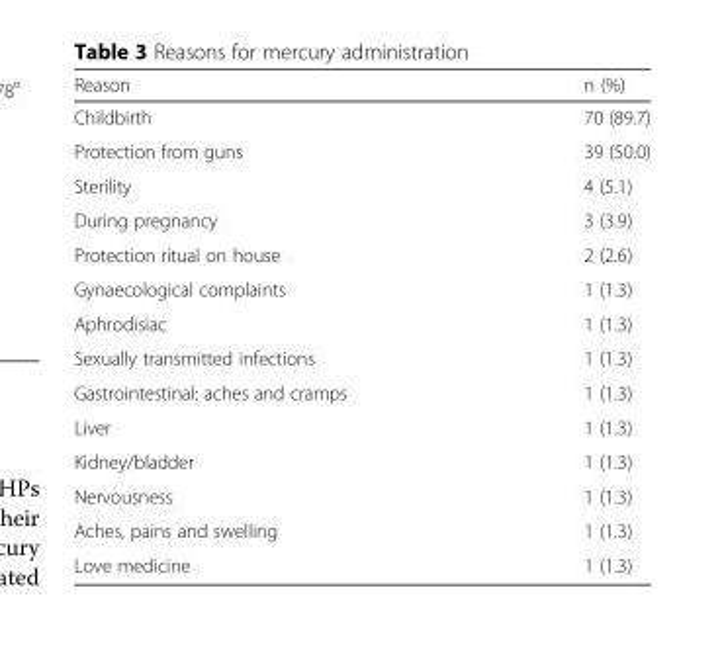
<table><thead><tr><td>Reason</td><td>n (%)</td></tr></thead><tbody><tr><td>Childbirth</td><td>70 (89.7)</td></tr><tr><td>Protection from guns</td><td>39 (50.0)</td></tr><tr><td>Sterility</td><td>4 (5.1)</td></tr><tr><td>During pregnancy</td><td>3 (3.9)</td></tr><tr><td>Protection ritual on house</td><td>2 (2.6)</td></tr><tr><td>Gynaecological complaints</td><td>1 (1.3)</td></tr><tr><td>Aphrodisiac</td><td>1 (1.3)</td></tr><tr><td>Sexually transmitted infections</td><td>1 (1.3)</td></tr><tr><td>Gastrointestinal: aches and cramps</td><td>1 (1.3)</td></tr><tr><td>Liver</td><td>1 (1.3)</td></tr><tr><td>Kidney/bladder</td><td>1 (1.3)</td></tr><tr><td>Nervousness</td><td>1 (1.3)</td></tr><tr><td>Aches, pains and swelling</td><td>1 (1.3)</td></tr><tr><td>Love medicine</td><td>1 (1.3)</td></tr></tbody></table>